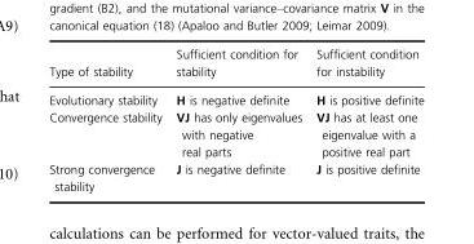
<table><thead><tr><td>Type of stability</td><td>Sufficient condition for stability</td><td>Sufficient condition for instability</td></tr></thead><tbody><tr><td>Evolutionary stability</td><td>H is negative definite</td><td>H is positive definite</td></tr><tr><td>Convergence stability</td><td>VJ has only eigenvalues with negative real parts</td><td>VJ has at least one eigenvalue with a positive real part</td></tr><tr><td>Strong convergence stability</td><td>J is negative definite</td><td>J is positive definite</td></tr></tbody></table>